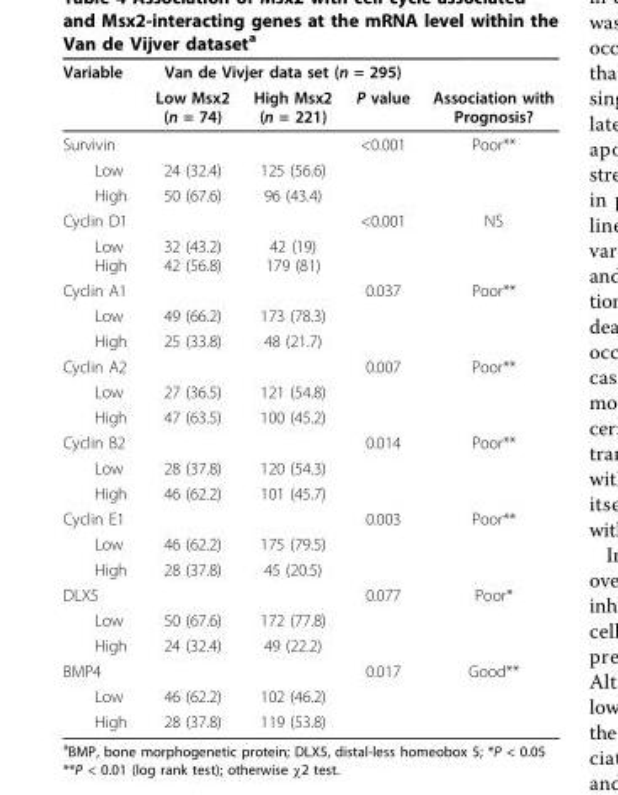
<table><thead><tr><td rowspan="2">Variable</td><td colspan="3">Van de Vivjer data set (n = 295)</td><td rowspan="2">Association with Prognosis?</td></tr><tr><td>Low Msx2 (n = 74)</td><td>High Msx2 (n = 221)</td><td>P value</td></tr></thead><tbody><tr><td>Survivin</td><td></td><td></td><td>&lt;0.001</td><td>Poor**</td></tr><tr><td>Low</td><td>24 (32.4)</td><td>125 (56.6)</td><td></td><td></td></tr><tr><td>High</td><td>50 (67.6)</td><td>96 (43.4)</td><td></td><td></td></tr><tr><td>Cyclin D1</td><td></td><td></td><td>&lt;0.001</td><td>NS</td></tr><tr><td>Low High</td><td>32 (43.2) 42 (56.8)</td><td>42 (19) 179 (81)</td><td></td><td></td></tr><tr><td>Cyclin A1</td><td></td><td></td><td>0.037</td><td>Poor**</td></tr><tr><td>Low</td><td>49 (66.2)</td><td>173 (78.3)</td><td></td><td></td></tr><tr><td>High</td><td>25 (33.8)</td><td>48 (21.7)</td><td></td><td></td></tr><tr><td>Cyclin A2</td><td></td><td></td><td>0.007</td><td>Poor**</td></tr><tr><td>Low</td><td>27 (36.5)</td><td>121 (54.8)</td><td></td><td></td></tr><tr><td>High</td><td>47 (63.5)</td><td>100 (45.2)</td><td></td><td></td></tr><tr><td>Cyclin B2</td><td></td><td></td><td>0.014</td><td>Poor**</td></tr><tr><td>Low</td><td>28 (37.8)</td><td>120 (54.3)</td><td></td><td></td></tr><tr><td>High</td><td>46 (62.2)</td><td>101 (45.7)</td><td></td><td></td></tr><tr><td>Cyclin E1</td><td></td><td></td><td>0.003</td><td>Poor**</td></tr><tr><td>Low</td><td>46 (62.2)</td><td>175 (79.5)</td><td></td><td></td></tr><tr><td>High</td><td>28 (37.8)</td><td>45 (20.5)</td><td></td><td></td></tr><tr><td>DLX5</td><td></td><td></td><td>0.077</td><td>Poor*</td></tr><tr><td>Low</td><td>50 (67.6)</td><td>172 (77.8)</td><td></td><td></td></tr><tr><td>High</td><td>24 (32.4)</td><td>49 (22.2)</td><td></td><td></td></tr><tr><td>BMP4</td><td></td><td></td><td>0.017</td><td>Good**</td></tr><tr><td>Low</td><td>46 (62.2)</td><td>102 (46.2)</td><td></td><td></td></tr><tr><td>High</td><td>28 (37.8)</td><td>119 (53.8)</td><td></td><td></td></tr></tbody></table>